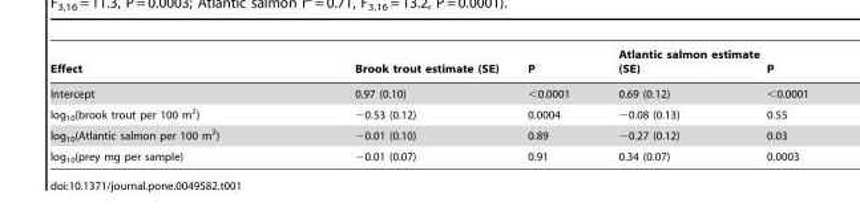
<table><thead><tr><td>Effect</td><td>Brook trout estimate (SE)</td><td>P</td><td>Atlantic salmon estimate (SE)</td><td>P</td></tr></thead><tbody><tr><td>Intercept</td><td>0.97 (0.10)</td><td>&lt;0.0001</td><td>0.69 (0.12)</td><td>&lt;0.0001</td></tr><tr><td>log<sub>10</sub>(brook trout per 100 m<sup>2</sup>)</td><td>−0.53 (0.12)</td><td>0.0004</td><td>−0.08 (0.13)</td><td>0.55</td></tr><tr><td>log<sub>10</sub>(Atlantic salmon per 100 m<sup>2</sup>)</td><td>−0.01 (0.10)</td><td>0.89</td><td>−0.27 (0.12)</td><td>0.03</td></tr><tr><td>log<sub>10</sub>(prey mg per sample)</td><td>−0.01 (0.07)</td><td>0.91</td><td>0.34 (0.07)</td><td>0.0003</td></tr></tbody></table>